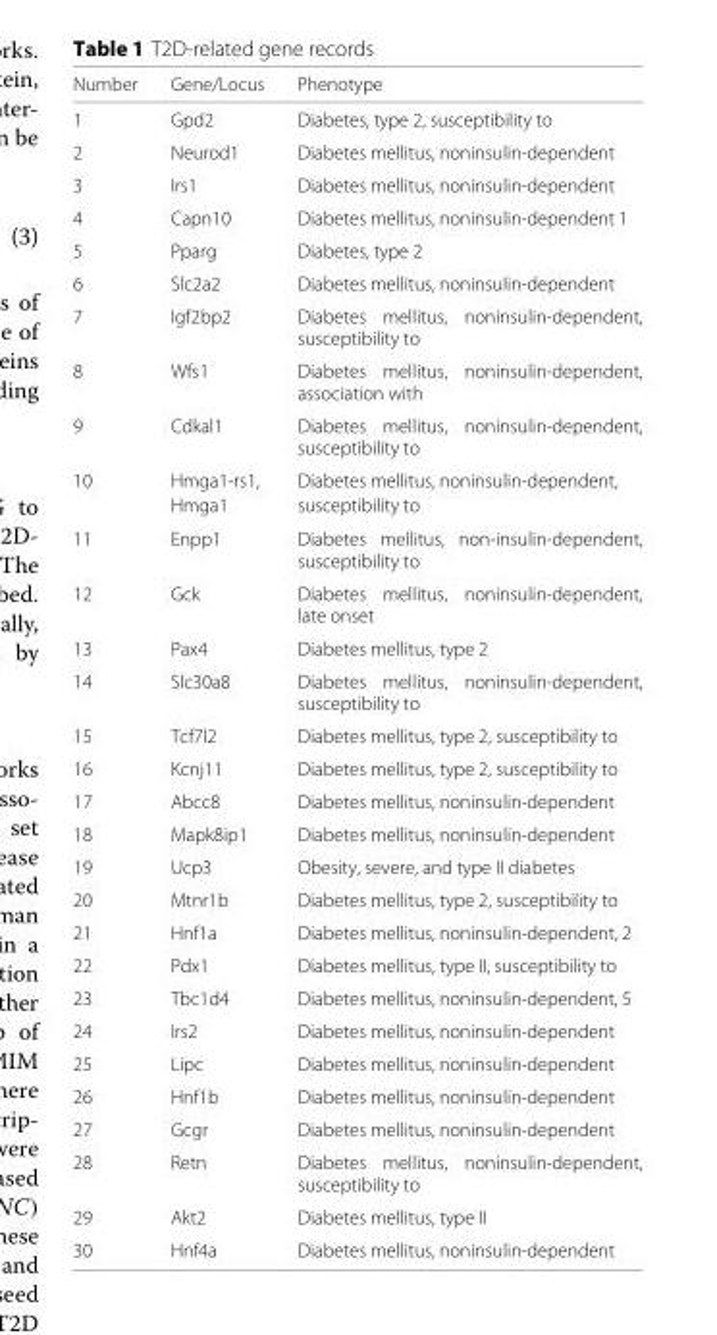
<table><thead><tr><td>Number</td><td>Gene/Locus</td><td>Phenotype</td></tr></thead><tbody><tr><td>1</td><td>Gpd2</td><td>Diabetes, type 2, susceptibility to</td></tr><tr><td>2</td><td>Neurod1</td><td>Diabetes mellitus, noninsulin-dependent</td></tr><tr><td>3</td><td>Irs1</td><td>Diabetes mellitus, noninsulin-dependent</td></tr><tr><td>4</td><td>Capn10</td><td>Diabetes mellitus, noninsulin-dependent 1</td></tr><tr><td>5</td><td>Pparg</td><td>Diabetes, type 2</td></tr><tr><td>6</td><td>Slc2a2</td><td>Diabetes mellitus, noninsulin-dependent</td></tr><tr><td>7</td><td>Igf2bp2</td><td>Diabetes mellitus, noninsulin-dependent, susceptibility to</td></tr><tr><td>8</td><td>Wfs1</td><td>Diabetes mellitus, noninsulin-dependent, association with</td></tr><tr><td>9</td><td>Cdkal1</td><td>Diabetes mellitus, noninsulin-dependent, susceptibility to</td></tr><tr><td rowspan="2">10</td><td>Hmga1-rs1,</td><td>Diabetes mellitus, noninsulin-dependent,</td></tr><tr><td>Hmga1</td><td>susceptibility to</td></tr><tr><td>11</td><td>Enpp1</td><td>Diabetes mellitus, non-insulin-dependent, susceptibility to</td></tr><tr><td>12</td><td>Gck</td><td>Diabetes mellitus, noninsulin-dependent, late onset</td></tr><tr><td>13</td><td>Pax4</td><td>Diabetes mellitus, type 2</td></tr><tr><td>14</td><td>Slc30a8</td><td>Diabetes mellitus, noninsulin-dependent, susceptibility to</td></tr><tr><td>15</td><td>Tcf7l2</td><td>Diabetes mellitus, type 2, susceptibility to</td></tr><tr><td>16</td><td>Kcnj11</td><td>Diabetes mellitus, type 2, susceptibility to</td></tr><tr><td>17</td><td>Abcc8</td><td>Diabetes mellitus, noninsulin-dependent</td></tr><tr><td>18</td><td>Mapk8ip1</td><td>Diabetes mellitus, noninsulin-dependent</td></tr><tr><td>19</td><td>Ucp3</td><td>Obesity, severe, and type II diabetes</td></tr><tr><td>20</td><td>Mtnr1b</td><td>Diabetes mellitus, type 2, susceptibility to</td></tr><tr><td>21</td><td>Hnf1a</td><td>Diabetes mellitus, noninsulin-dependent, 2</td></tr><tr><td>22</td><td>Pdx1</td><td>Diabetes mellitus, type II, susceptibility to</td></tr><tr><td>23</td><td>Tbc1d4</td><td>Diabetes mellitus, noninsulin-dependent, 5</td></tr><tr><td>24</td><td>Irs2</td><td>Diabetes mellitus, noninsulin-dependent</td></tr><tr><td>25</td><td>Lipc</td><td>Diabetes mellitus, noninsulin-dependent</td></tr><tr><td>26</td><td>Hnf1b</td><td>Diabetes mellitus, noninsulin-dependent</td></tr><tr><td>27</td><td>Gcgr</td><td>Diabetes mellitus, noninsulin-dependent</td></tr><tr><td>28</td><td>Retn</td><td>Diabetes mellitus, noninsulin-dependent, susceptibility to</td></tr><tr><td>29</td><td>Akt2</td><td>Diabetes mellitus, type II</td></tr><tr><td>30</td><td>Hnf4a</td><td>Diabetes mellitus, noninsulin-dependent</td></tr></tbody></table>